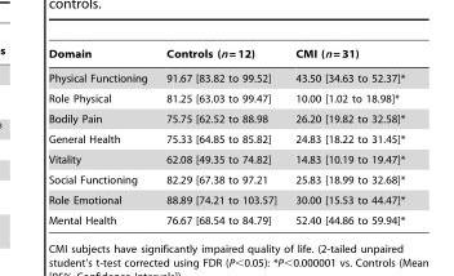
<table><thead><tr><td>Domain</td><td>Controls (n = 12)</td><td>CMI (n = 31)</td></tr></thead><tbody><tr><td>Physical Functioning</td><td>91.67 [83.82 to 99.52]</td><td>43.50 [34.63 to 52.37]*</td></tr><tr><td>Role Physical</td><td>81.25 [63.03 to 99.47]</td><td>10.00 [1.02 to 18.98]*</td></tr><tr><td>Bodily Pain</td><td>75.75 [62.52 to 88.98</td><td>26.20 [19.82 to 32.58]*</td></tr><tr><td>General Health</td><td>75.33 [64.85 to 85.82]</td><td>24.83 [18.22 to 31.45]*</td></tr><tr><td>Vitality</td><td>62.08 [49.35 to 74.82]</td><td>14.83 [10.19 to 19.47]*</td></tr><tr><td>Social Functioning</td><td>82.29 [67.38 to 97.21</td><td>25.83 [18.99 to 32.68]*</td></tr><tr><td>Role Emotional</td><td>88.89 [74.21 to 103.57]</td><td>30.00 [15.53 to 44.47]*</td></tr><tr><td>Mental Health</td><td>76.67 [68.54 to 84.79]</td><td>52.40 [44.86 to 59.94]*</td></tr></tbody></table>